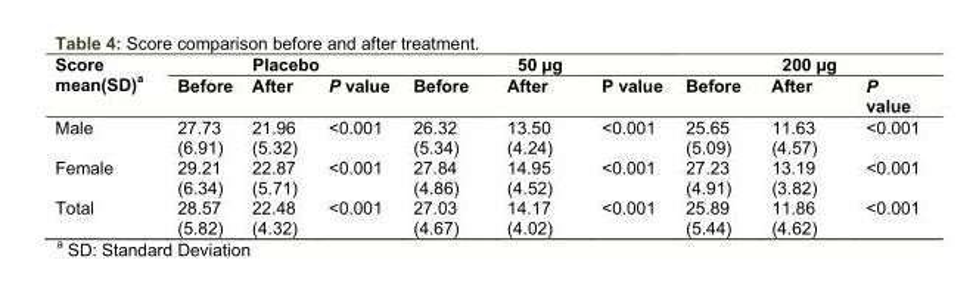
<table><thead><tr><td rowspan="2">Score mean(SD)<sup>a</sup></td><td colspan="3">Placebo</td><td colspan="3">50 µg</td><td colspan="3">200 µg</td></tr><tr><td>Before</td><td>After</td><td>P value</td><td>Before</td><td>After</td><td>P value</td><td>Before</td><td>After</td><td>P value</td></tr></thead><tbody><tr><td>Male</td><td>27.73 (6.91)</td><td>21.96 (5.32)</td><td>&lt;0.001</td><td>26.32 (5.34)</td><td>13.50 (4.24)</td><td>&lt;0.001</td><td>25.65 (5.09)</td><td>11.63 (4.57)</td><td>&lt;0.001</td></tr><tr><td>Female</td><td>29.21 (6.34)</td><td>22.87 (5.71)</td><td>&lt;0.001</td><td>27.84 (4.86)</td><td>14.95 (4.52)</td><td>&lt;0.001</td><td>27.23 (4.91)</td><td>13.19 (3.82)</td><td>&lt;0.001</td></tr><tr><td>Total</td><td>28.57 (5.82)</td><td>22.48 (4.32)</td><td>&lt;0.001</td><td>27.03 (4.67)</td><td>14.17 (4.02)</td><td>&lt;0.001</td><td>25.89 (5.44)</td><td>11.86 (4.62)</td><td>&lt;0.001</td></tr></tbody></table>